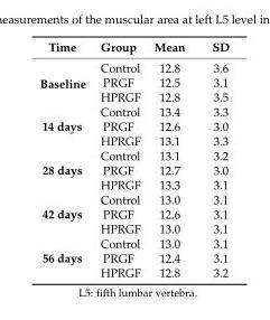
<table><thead><tr><td>Time</td><td>Group</td><td>Mean</td><td>SD</td></tr></thead><tbody><tr><td rowspan="3">Baseline</td><td>Control</td><td>12.8</td><td>3.6</td></tr><tr><td>PRGF</td><td>12.5</td><td>3.1</td></tr><tr><td>HPRGF</td><td>12.8</td><td>3.5</td></tr><tr><td rowspan="3">14 days</td><td>Control</td><td>13.4</td><td>3.3</td></tr><tr><td>PRGF</td><td>12.6</td><td>3.0</td></tr><tr><td>HPRGF</td><td>13.1</td><td>3.3</td></tr><tr><td rowspan="3">28 days</td><td>Control</td><td>13.1</td><td>3.2</td></tr><tr><td>PRGF</td><td>12.7</td><td>3.0</td></tr><tr><td>HPRGF</td><td>13.3</td><td>3.1</td></tr><tr><td rowspan="3">42 days</td><td>Control</td><td>13.0</td><td>3.1</td></tr><tr><td>PRGF</td><td>12.6</td><td>3.1</td></tr><tr><td>HPRGF</td><td>13.0</td><td>3.1</td></tr><tr><td rowspan="3">56 days</td><td>Control</td><td>13.0</td><td>3.1</td></tr><tr><td>PRGF</td><td>12.4</td><td>3.1</td></tr><tr><td>HPRGF</td><td>12.8</td><td>3.2</td></tr></tbody></table>